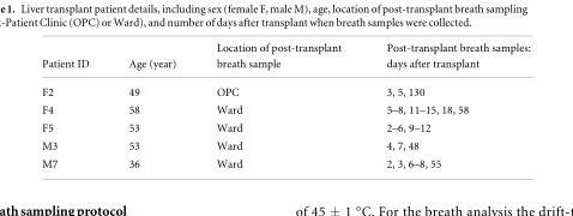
<table><thead><tr><td>Patient ID</td><td>Age (year)</td><td>Location of post-transplant breath sample</td><td>Post-transplant breath samples: days after transplant</td></tr></thead><tbody><tr><td>F2</td><td>49</td><td>OPC</td><td>3, 5, 130</td></tr><tr><td>F4</td><td>58</td><td>Ward</td><td>5–8, 11–15, 18, 58</td></tr><tr><td>F5</td><td>53</td><td>Ward</td><td>2–6, 9–12</td></tr><tr><td>M3</td><td>53</td><td>Ward</td><td>4, 7, 48</td></tr><tr><td>M7</td><td>36</td><td>Ward</td><td>2, 3, 6–8, 55</td></tr></tbody></table>